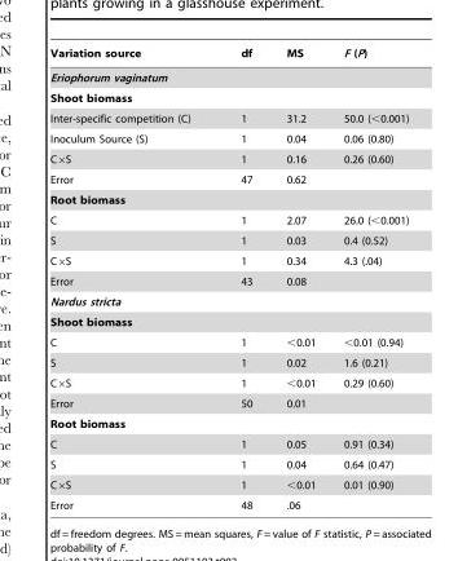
<table><thead><tr><td>Variation source</td><td>df</td><td>MS</td><td>F (P)</td></tr></thead><tbody><tr><td colspan="4">Eriophorum vaginatum</td></tr><tr><td colspan="4">Shoot biomass</td></tr><tr><td>Inter-specific competition (C)</td><td>1</td><td>31.2</td><td>50.0 (&lt;0.001)</td></tr><tr><td>Inoculum Source (S)</td><td>1</td><td>0.04</td><td>0.06 (0.80)</td></tr><tr><td>C×S</td><td>1</td><td>0.16</td><td>0.26 (0.60)</td></tr><tr><td>Error</td><td>47</td><td>0.62</td><td></td></tr><tr><td colspan="4">Root biomass</td></tr><tr><td>C</td><td>1</td><td>2.07</td><td>26.0 (&lt;0.001)</td></tr><tr><td>S</td><td>1</td><td>0.03</td><td>0.4 (0.52)</td></tr><tr><td>C×S</td><td>1</td><td>0.34</td><td>4.3 (.04)</td></tr><tr><td>Error</td><td>43</td><td>0.08</td><td></td></tr><tr><td colspan="4">Nardus stricta</td></tr><tr><td colspan="4">Shoot biomass</td></tr><tr><td>C</td><td>1</td><td>&lt;0.01</td><td>&lt;0.01 (0.94)</td></tr><tr><td>S</td><td>1</td><td>0.02</td><td>1.6 (0.21)</td></tr><tr><td>C×S</td><td>1</td><td>&lt;0.01</td><td>0.29 (0.60)</td></tr><tr><td>Error</td><td>50</td><td>0.01</td><td></td></tr><tr><td colspan="4">Root biomass</td></tr><tr><td>C</td><td>1</td><td>0.05</td><td>0.91 (0.34)</td></tr><tr><td>S</td><td>1</td><td>0.04</td><td>0.64 (0.47)</td></tr><tr><td>C×S</td><td>1</td><td>&lt;0.01</td><td>0.01 (0.90)</td></tr><tr><td>Error</td><td>48</td><td>.06</td><td></td></tr></tbody></table>